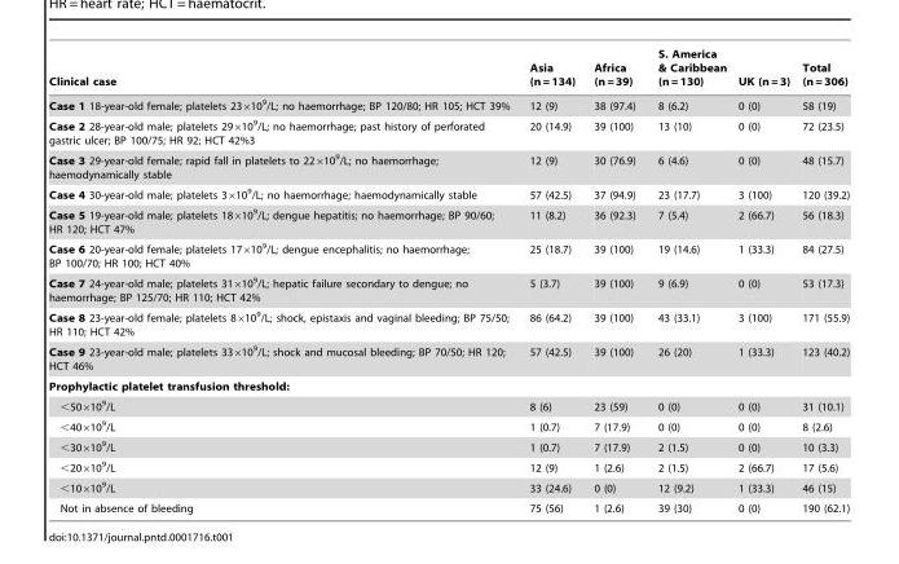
<table><thead><tr><td>Clinical case</td><td>Asia (n = 134)</td><td>Africa (n = 39)</td><td>S. America &amp; Caribbean (n = 130)</td><td>UK (n = 3)</td><td>Total (n = 306)</td></tr></thead><tbody><tr><td>Case 1 18-year-old female; platelets 23×10<sup>9</sup>/L; no haemorrhage; BP 120/80; HR 105; HCT 39%</td><td>12 (9)</td><td>38 (97.4)</td><td>8 (6.2)</td><td>0 (0)</td><td>58 (19)</td></tr><tr><td>Case 2 28-year-old male; platelets 29×10<sup>9</sup>/L; no haemorrhage; past history of perforated gastric ulcer; BP 100/75; HR 92; HCT 42%3</td><td>20 (14.9)</td><td>39 (100)</td><td>13 (10)</td><td>0 (0)</td><td>72 (23.5)</td></tr><tr><td>Case 3 29-year-old female; rapid fall in platelets to 22×10<sup>9</sup>/L; no haemorrhage; haemodynamically stable</td><td>12 (9)</td><td>30 (76.9)</td><td>6 (4.6)</td><td>0 (0)</td><td>48 (15.7)</td></tr><tr><td>Case 4 30-year-old male; platelets 3×10<sup>9</sup>/L; no haemorrhage; haemodynamically stable</td><td>57 (42.5)</td><td>37 (94.9)</td><td>23 (17.7)</td><td>3 (100)</td><td>120 (39.2)</td></tr><tr><td>Case 5 19-year-old male; platelets 18×10<sup>9</sup>/L; dengue hepatitis; no haemorrhage; BP 90/60; HR 120; HCT 47%</td><td>11 (8.2)</td><td>36 (92.3)</td><td>7 (5.4)</td><td>2 (66.7)</td><td>56 (18.3)</td></tr><tr><td>Case 6 20-year-old female; platelets 17×10<sup>9</sup>/L; dengue encephalitis; no haemorrhage; BP 100/70; HR 100; HCT 40%</td><td>25 (18.7)</td><td>39 (100)</td><td>19 (14.6)</td><td>1 (33.3)</td><td>84 (27.5)</td></tr><tr><td>Case 7 24-year-old male; platelets 31×10<sup>9</sup>/L; hepatic failure secondary to dengue; no haemorrhage; BP 125/70; HR 110; HCT 42%</td><td>5 (3.7)</td><td>39 (100)</td><td>9 (6.9)</td><td>0 (0)</td><td>53 (17.3)</td></tr><tr><td>Case 8 23-year-old female; platelets 8×10<sup>9</sup>/L; shock, epistaxis and vaginal bleeding; BP 75/50; HR 110; HCT 42%</td><td>86 (64.2)</td><td>39 (100)</td><td>43 (33.1)</td><td>3 (100)</td><td>171 (55.9)</td></tr><tr><td>Case 9 23-year-old male; platelets 33×10<sup>9</sup>/L; shock and mucosal bleeding; BP 70/50; HR 120; HCT 46%</td><td>57 (42.5)</td><td>39 (100)</td><td>26 (20)</td><td>1 (33.3)</td><td>123 (40.2)</td></tr><tr><td colspan="6">Prophylactic platelet transfusion threshold:</td></tr><tr><td>&lt;50×10<sup>9</sup>/L</td><td>8 (6)</td><td>23 (59)</td><td>0 (0)</td><td>0 (0)</td><td>31 (10.1)</td></tr><tr><td>&lt;40×10<sup>9</sup>/L</td><td>1 (0.7)</td><td>7 (17.9)</td><td>0 (0)</td><td>0 (0)</td><td>8 (2.6)</td></tr><tr><td>&lt;30×10<sup>9</sup>/L</td><td>1 (0.7)</td><td>7 (17.9)</td><td>2 (1.5)</td><td>0 (0)</td><td>10 (3.3)</td></tr><tr><td>&lt;20×10<sup>9</sup>/L</td><td>12 (9)</td><td>1 (2.6)</td><td>2 (1.5)</td><td>2 (66.7)</td><td>17 (5.6)</td></tr><tr><td>&lt;10×10<sup>9</sup>/L</td><td>33 (24.6)</td><td>0 (0)</td><td>12 (9.2)</td><td>1 (33.3)</td><td>46 (15)</td></tr><tr><td>Not in absence of bleeding</td><td>75 (56)</td><td>1 (2.6)</td><td>39 (30)</td><td>0 (0)</td><td>190 (62.1)</td></tr></tbody></table>